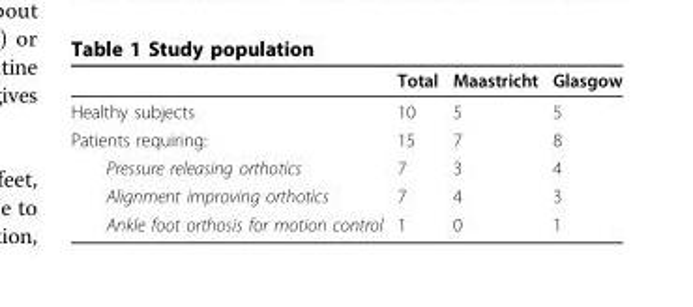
<table><thead><tr><td></td><td>Total</td><td>Maastricht</td><td>Glasgow</td></tr></thead><tbody><tr><td>Healthy subjects</td><td>10</td><td>5</td><td>5</td></tr><tr><td>Patients requiring:</td><td>15</td><td>7</td><td>8</td></tr><tr><td>Pressure releasing orthotics</td><td>7</td><td>3</td><td>4</td></tr><tr><td>Alignment improving orthotics</td><td>7</td><td>4</td><td>3</td></tr><tr><td>Ankle foot orthosis for motion control</td><td>1</td><td>0</td><td>1</td></tr></tbody></table>